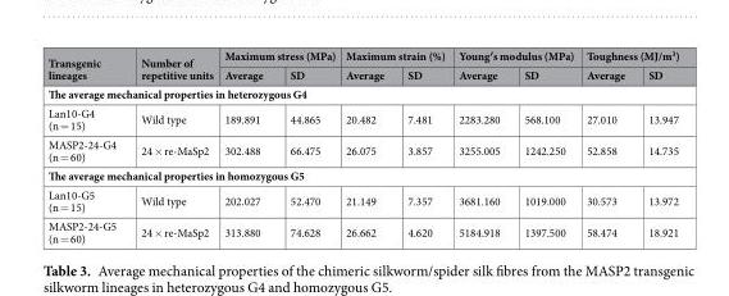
<table><thead><tr><td rowspan="2">Transgenic lineages</td><td rowspan="2">Number of repetitive units</td><td colspan="2">Maximum stress (MPa)</td><td colspan="2">Maximum strain (%)</td><td colspan="2">Young′s modulus (MPa)</td><td colspan="2">Toughness (MJ/m<sup>3</sup>)</td></tr><tr><td>Average</td><td>SD</td><td>Average</td><td>SD</td><td>Average</td><td>SD</td><td>Average</td><td>SD</td></tr></thead><tbody><tr><td colspan="10">The average mechanical properties in heterozygous G4</td></tr><tr><td>Lan10-G4 (n = 15)</td><td>Wild type</td><td>189.891</td><td>44.865</td><td>20.482</td><td>7.481</td><td>2283.280</td><td>568.100</td><td>27.010</td><td>13.947</td></tr><tr><td>MASP2-24-G4 (n = 60)</td><td>24 × re-MaSp2</td><td>302.488</td><td>66.475</td><td>26.075</td><td>3.857</td><td>3255.005</td><td>1242.250</td><td>52.858</td><td>14.735</td></tr><tr><td colspan="10">The average mechanical properties in homozygous G5</td></tr><tr><td>Lan10-G5 (n = 15)</td><td>Wild type</td><td>202.027</td><td>52.470</td><td>21.149</td><td>7.357</td><td>3681.160</td><td>1019.000</td><td>30.573</td><td>13.972</td></tr><tr><td>MASP2-24-G5 (n = 60)</td><td>24 × re-MaSp2</td><td>313.880</td><td>74.628</td><td>26.662</td><td>4.620</td><td>5184.918</td><td>1397.500</td><td>58.474</td><td>18.921</td></tr></tbody></table>